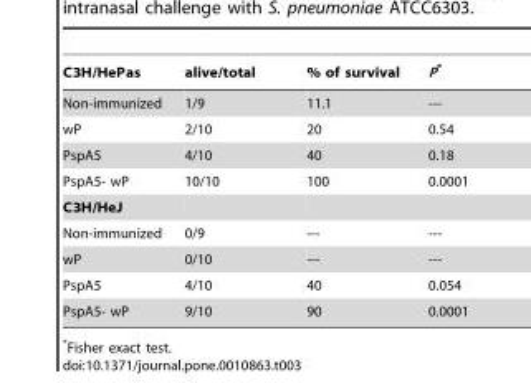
<table><thead><tr><td>C3H/HePas</td><td>alive/total</td><td>% of survival</td><td>P*</td></tr></thead><tbody><tr><td>Non-immunized</td><td>1/9</td><td>11.1</td><td>---</td></tr><tr><td>wP</td><td>2/10</td><td>20</td><td>0.54</td></tr><tr><td>PspA5</td><td>4/10</td><td>40</td><td>0.18</td></tr><tr><td>PspA5- wP</td><td>10/10</td><td>100</td><td>0.0001</td></tr><tr><td colspan="4">C3H/HeJ</td></tr><tr><td>Non-immunized</td><td>0/9</td><td>---</td><td>---</td></tr><tr><td>wP</td><td>0/10</td><td>---</td><td>---</td></tr><tr><td>PspA5</td><td>4/10</td><td>40</td><td>0.054</td></tr><tr><td>PspA5- wP</td><td>9/10</td><td>90</td><td>0.0001</td></tr></tbody></table>